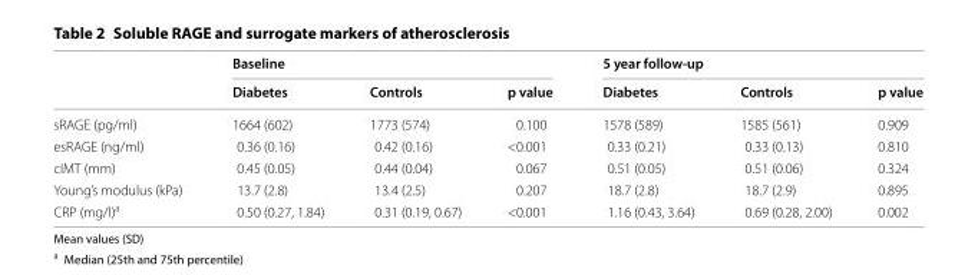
<table><thead><tr><td rowspan="2"></td><td colspan="3">Baseline</td><td colspan="3">5 year follow-up</td></tr><tr><td>Diabetes</td><td>Controls</td><td>p value</td><td>Diabetes</td><td>Controls</td><td>p value</td></tr></thead><tbody><tr><td>sRAGE (pg/ml)</td><td>1664 (602)</td><td>1773 (574)</td><td>0.100</td><td>1578 (589)</td><td>1585 (561)</td><td>0.909</td></tr><tr><td>esRAGE (ng/ml)</td><td>0.36 (0.16)</td><td>0.42 (0.16)</td><td>&lt;0.001</td><td>0.33 (0.21)</td><td>0.33 (0.13)</td><td>0.810</td></tr><tr><td>cIMT (mm)</td><td>0.45 (0.05)</td><td>0.44 (0.04)</td><td>0.067</td><td>0.51 (0.05)</td><td>0.51 (0.06)</td><td>0.324</td></tr><tr><td>Young’s modulus (kPa)</td><td>13.7 (2.8)</td><td>13.4 (2.5)</td><td>0.207</td><td>18.7 (2.8)</td><td>18.7 (2.9)</td><td>0.895</td></tr><tr><td>CRP (mg/l)<sup>a</sup></td><td>0.50 (0.27, 1.84)</td><td>0.31 (0.19, 0.67)</td><td>&lt;0.001</td><td>1.16 (0.43, 3.64)</td><td>0.69 (0.28, 2.00)</td><td>0.002</td></tr></tbody></table>